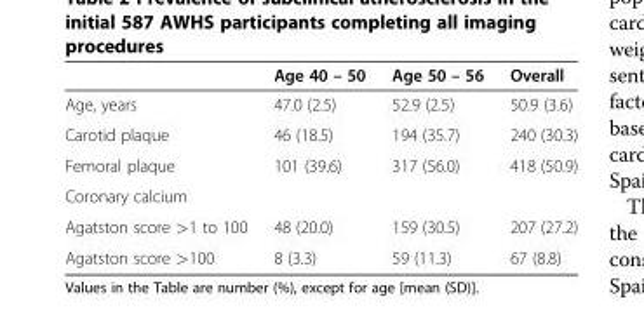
<table><thead><tr><td></td><td>Age 40 – 50</td><td>Age 50 – 56</td><td>Overall</td></tr></thead><tbody><tr><td>Age, years</td><td>47.0 (2.5)</td><td>52.9 (2.5)</td><td>50.9 (3.6)</td></tr><tr><td>Carotid plaque</td><td>46 (18.5)</td><td>194 (35.7)</td><td>240 (30.3)</td></tr><tr><td>Femoral plaque</td><td>101 (39.6)</td><td>317 (56.0)</td><td>418 (50.9)</td></tr><tr><td colspan="4">Coronary calcium</td></tr><tr><td>Agatston score &gt;1 to 100</td><td>48 (20.0)</td><td>159 (30.5)</td><td>207 (27.2)</td></tr><tr><td>Agatston score &gt;100</td><td>8 (3.3)</td><td>59 (11.3)</td><td>67 (8.8)</td></tr></tbody></table>